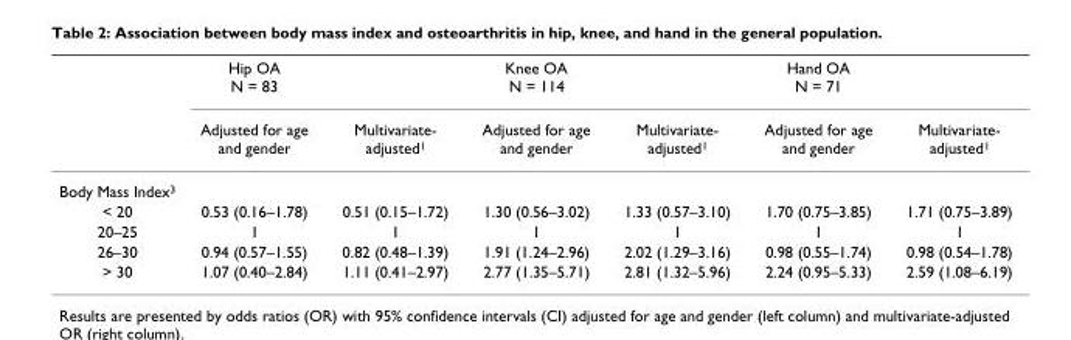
<table><thead><tr><td rowspan="2"></td><td rowspan="2">Hip OA N = 83 Adjusted for age and gender</td><td rowspan="2">Multivariate- adjusted<sup>1</sup></td><td rowspan="2">Knee OA N = 114 Adjusted for age and gender</td><td rowspan="2">Multivariate- adjusted<sup>1</sup></td><td rowspan="2">Hand OA N = 71 Adjusted for age and gender</td><td rowspan="2">Multivariate- adjusted<sup>1</sup></td></tr><tr></tr></thead><tbody><tr><td colspan="7">Body Mass Index<sup>3</sup></td></tr><tr><td>&lt; 20</td><td>0.53 (0.16–1.78)</td><td>0.51 (0.15–1.72)</td><td>1.30 (0.56–3.02)</td><td>1.33 (0.57–3.10)</td><td>1.70 (0.75–3.85)</td><td>1.71 (0.75–3.89)</td></tr><tr><td>20–25</td><td>1</td><td>1</td><td>1</td><td>1</td><td>1</td><td>1</td></tr><tr><td>26–30</td><td>0.94 (0.57–1.55)</td><td>0.82 (0.48–1.39)</td><td>1.91 (1.24–2.96)</td><td>2.02 (1.29–3.16)</td><td>0.98 (0.55–1.74)</td><td>0.98 (0.54–1.78)</td></tr><tr><td>&gt; 30</td><td>1.07 (0.40–2.84)</td><td>1.11 (0.41–2.97)</td><td>2.77 (1.35–5.71)</td><td>2.81 (1.32–5.96)</td><td>2.24 (0.95–5.33)</td><td>2.59 (1.08–6.19)</td></tr></tbody></table>